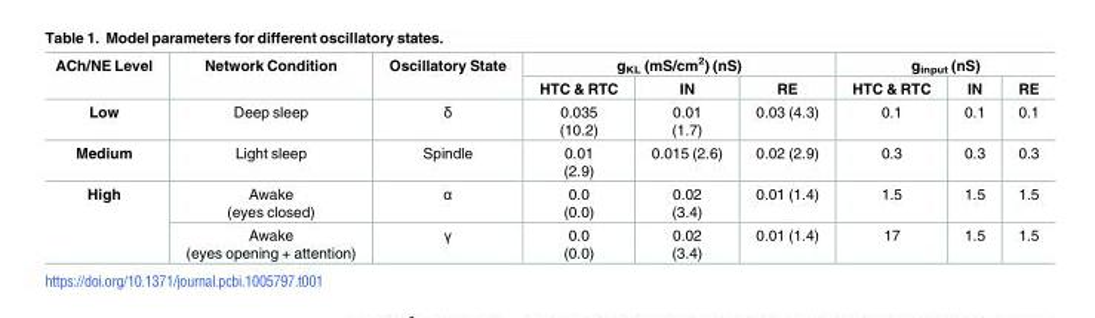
<table><thead><tr><td rowspan="2">ACh/NE Level</td><td rowspan="2">Network Condition</td><td rowspan="2">Oscillatory State</td><td colspan="3">g<sub>KL</sub> (mS/cm<sup>2</sup>) (nS)</td><td colspan="3">g<sub>input</sub> (nS)</td></tr><tr><td>HTC &amp; RTC</td><td>IN</td><td>RE</td><td>HTC &amp; RTC</td><td>IN</td><td>RE</td></tr></thead><tbody><tr><td>Low</td><td>Deep sleep</td><td>δ</td><td>0.035 (10.2)</td><td>0.01 (1.7)</td><td>0.03 (4.3)</td><td>0.1</td><td>0.1</td><td>0.1</td></tr><tr><td>Medium</td><td>Light sleep</td><td>Spindle</td><td>0.01 (2.9)</td><td>0.015 (2.6)</td><td>0.02 (2.9)</td><td>0.3</td><td>0.3</td><td>0.3</td></tr><tr><td rowspan="2">High</td><td>Awake (eyes closed)</td><td>α</td><td>0.0 (0.0)</td><td>0.02 (3.4)</td><td>0.01 (1.4)</td><td>1.5</td><td>1.5</td><td>1.5</td></tr><tr><td>Awake (eyes opening + attention)</td><td>γ</td><td>0.0 (0.0)</td><td>0.02 (3.4)</td><td>0.01 (1.4)</td><td>17</td><td>1.5</td><td>1.5</td></tr></tbody></table>